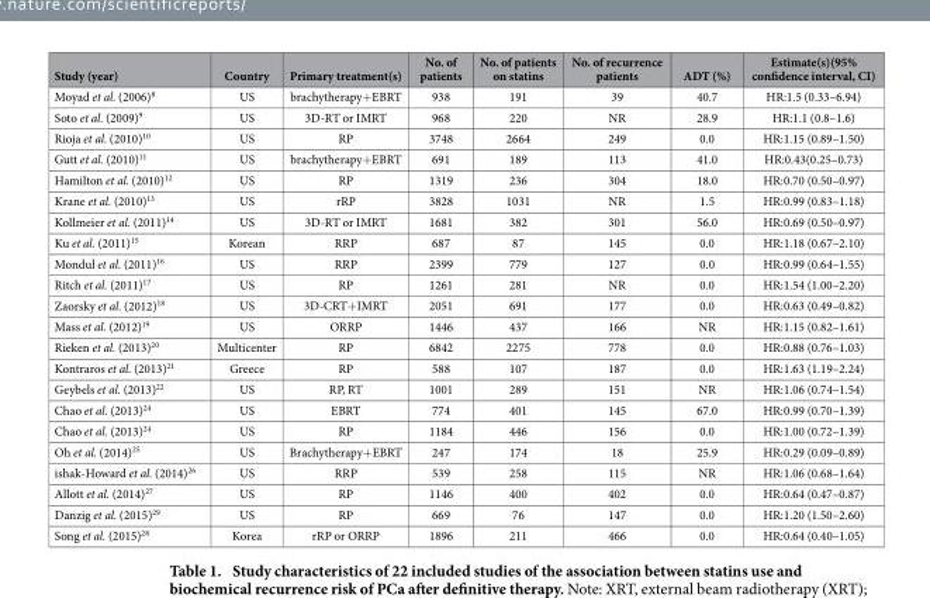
<table><thead><tr><td>Study (year)</td><td>Country</td><td>Primary treatment(s)</td><td>No. of patients</td><td>No. of patients on statins</td><td>No. of recurrence patients</td><td>ADT (%)</td><td>Estimate(s)(95% confidence interval, CI)</td></tr></thead><tbody><tr><td>Moyad et al. (2006)<sup>8</sup></td><td>US</td><td>brachytherapy+ EBRT</td><td>938</td><td>191</td><td>39</td><td>40.7</td><td>HR:1.5 (0.33–6.94)</td></tr><tr><td>Soto et al. (2009)<sup>9</sup></td><td>US</td><td>3D-RT or IMRT</td><td>968</td><td>220</td><td>NR</td><td>28.9</td><td>HR:1.1 (0.8–1.6)</td></tr><tr><td>Rioja et al. (2010)<sup>10</sup></td><td>US</td><td>RP</td><td>3748</td><td>2664</td><td>249</td><td>0.0</td><td>HR:1.15 (0.89–1.50)</td></tr><tr><td>Gutt et al. (2010)<sup>11</sup></td><td>US</td><td>brachytherapy+ EBRT</td><td>691</td><td>189</td><td>113</td><td>41.0</td><td>HR:0.43(0.25–0.73)</td></tr><tr><td>Hamilton et al. (2010)<sup>12</sup></td><td>US</td><td>RP</td><td>1319</td><td>236</td><td>304</td><td>18.0</td><td>HR:0.70 (0.50–0.97)</td></tr><tr><td>Krane et al. (2010)<sup>13</sup></td><td>US</td><td>rRP</td><td>3828</td><td>1031</td><td>NR</td><td>1.5</td><td>HR:0.99 (0.83–1.18)</td></tr><tr><td>Kollmeier et al. (2011)<sup>14</sup></td><td>US</td><td>3D-RT or IMRT</td><td>1681</td><td>382</td><td>301</td><td>56.0</td><td>HR:0.69 (0.50–0.97)</td></tr><tr><td>Ku et al. (2011)<sup>15</sup></td><td>Korean</td><td>RRP</td><td>687</td><td>87</td><td>145</td><td>0.0</td><td>HR:1.18 (0.67–2.10)</td></tr><tr><td>Mondul et al. (2011)<sup>16</sup></td><td>US</td><td>RRP</td><td>2399</td><td>779</td><td>127</td><td>0.0</td><td>HR:0.99 (0.64–1.55)</td></tr><tr><td>Ritch et al. (2011)<sup>17</sup></td><td>US</td><td>RP</td><td>1261</td><td>281</td><td>NR</td><td>0.0</td><td>HR:1.54 (1.00–2.20)</td></tr><tr><td>Zaorsky et al. (2012)<sup>18</sup></td><td>US</td><td>3D-CRT+ IMRT</td><td>2051</td><td>691</td><td>177</td><td>0.0</td><td>HR:0.63 (0.49–0.82)</td></tr><tr><td>Mass et al. (2012)<sup>19</sup></td><td>US</td><td>ORRP</td><td>1446</td><td>437</td><td>166</td><td>NR</td><td>HR:1.15 (0.82–1.61)</td></tr><tr><td>Rieken et al. (2013)<sup>20</sup></td><td>Multicenter</td><td>RP</td><td>6842</td><td>2275</td><td>778</td><td>0.0</td><td>HR:0.88 (0.76–1.03)</td></tr><tr><td>Kontraros et al. (2013)<sup>21</sup></td><td>Greece</td><td>RP</td><td>588</td><td>107</td><td>187</td><td>0.0</td><td>HR:1.63 (1.19–2.24)</td></tr><tr><td>Geybels et al. (2013)<sup>22</sup></td><td>US</td><td>RP, RT</td><td>1001</td><td>289</td><td>151</td><td>NR</td><td>HR:1.06 (0.74–1.54)</td></tr><tr><td>Chao et al. (2013)<sup>24</sup></td><td>US</td><td>EBRT</td><td>774</td><td>401</td><td>145</td><td>67.0</td><td>HR:0.99 (0.70–1.39)</td></tr><tr><td>Chao et al. (2013)<sup>24</sup></td><td>US</td><td>RP</td><td>1184</td><td>446</td><td>156</td><td>0.0</td><td>HR:1.00 (0.72–1.39)</td></tr><tr><td>Oh et al. (2014)<sup>25</sup></td><td>US</td><td>Brachytherapy+ EBRT</td><td>247</td><td>174</td><td>18</td><td>25.9</td><td>HR:0.29 (0.09–0.89)</td></tr><tr><td>ishak-Howard et al. (2014)<sup>26</sup></td><td>US</td><td>RRP</td><td>539</td><td>258</td><td>115</td><td>NR</td><td>HR:1.06 (0.68–1.64)</td></tr><tr><td>Allott et al. (2014)<sup>27</sup></td><td>US</td><td>RP</td><td>1146</td><td>400</td><td>402</td><td>0.0</td><td>HR:0.64 (0.47–0.87)</td></tr><tr><td>Danzig et al. (2015)<sup>29</sup></td><td>US</td><td>RP</td><td>669</td><td>76</td><td>147</td><td>0.0</td><td>HR:1.20 (1.50–2.60)</td></tr><tr><td>Song et al. (2015)<sup>28</sup></td><td>Korea</td><td>rRP or ORRP</td><td>1896</td><td>211</td><td>466</td><td>0.0</td><td>HR:0.64 (0.40–1.05)</td></tr></tbody></table>